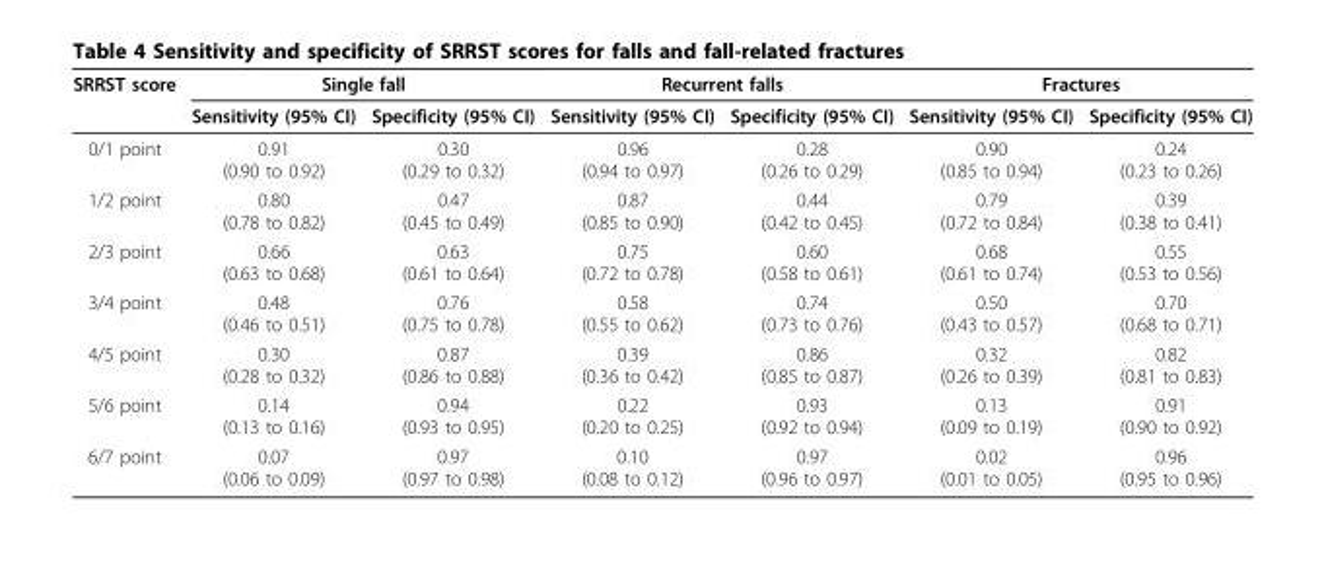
<table><thead><tr><td rowspan="2">SRRST score</td><td colspan="2">Single fall</td><td colspan="2">Recurrent falls</td><td colspan="2">Fractures</td></tr><tr><td>Sensitivity (95% CI)</td><td>Specificity (95% CI)</td><td>Sensitivity (95% CI)</td><td>Specificity (95% CI)</td><td>Sensitivity (95% CI)</td><td>Specificity (95% CI)</td></tr></thead><tbody><tr><td>0/1 point</td><td>0.91 (0.90 to 0.92)</td><td>0.30 (0.29 to 0.32)</td><td>0.96 (0.94 to 0.97)</td><td>0.28 (0.26 to 0.29)</td><td>0.90 (0.85 to 0.94)</td><td>0.24 (0.23 to 0.26)</td></tr><tr><td>1/2 point</td><td>0.80 (0.78 to 0.82)</td><td>0.47 (0.45 to 0.49)</td><td>0.87 (0.85 to 0.90)</td><td>0.44 (0.42 to 0.45)</td><td>0.79 (0.72 to 0.84)</td><td>0.39 (0.38 to 0.41)</td></tr><tr><td>2/3 point</td><td>0.66 (0.63 to 0.68)</td><td>0.63 (0.61 to 0.64)</td><td>0.75 (0.72 to 0.78)</td><td>0.60 (0.58 to 0.61)</td><td>0.68 (0.61 to 0.74)</td><td>0.55 (0.53 to 0.56)</td></tr><tr><td>3/4 point</td><td>0.48 (0.46 to 0.51)</td><td>0.76 (0.75 to 0.78)</td><td>0.58 (0.55 to 0.62)</td><td>0.74 (0.73 to 0.76)</td><td>0.50 (0.43 to 0.57)</td><td>0.70 (0.68 to 0.71)</td></tr><tr><td>4/5 point</td><td>0.30 (0.28 to 0.32)</td><td>0.87 (0.86 to 0.88)</td><td>0.39 (0.36 to 0.42)</td><td>0.86 (0.85 to 0.87)</td><td>0.32 (0.26 to 0.39)</td><td>0.82 (0.81 to 0.83)</td></tr><tr><td>5/6 point</td><td>0.14 (0.13 to 0.16)</td><td>0.94 (0.93 to 0.95)</td><td>0.22 (0.20 to 0.25)</td><td>0.93 (0.92 to 0.94)</td><td>0.13 (0.09 to 0.19)</td><td>0.91 (0.90 to 0.92)</td></tr><tr><td>6/7 point</td><td>0.07 (0.06 to 0.09)</td><td>0.97 (0.97 to 0.98)</td><td>0.10 (0.08 to 0.12)</td><td>0.97 (0.96 to 0.97)</td><td>0.02 (0.01 to 0.05)</td><td>0.96 (0.95 to 0.96)</td></tr></tbody></table>